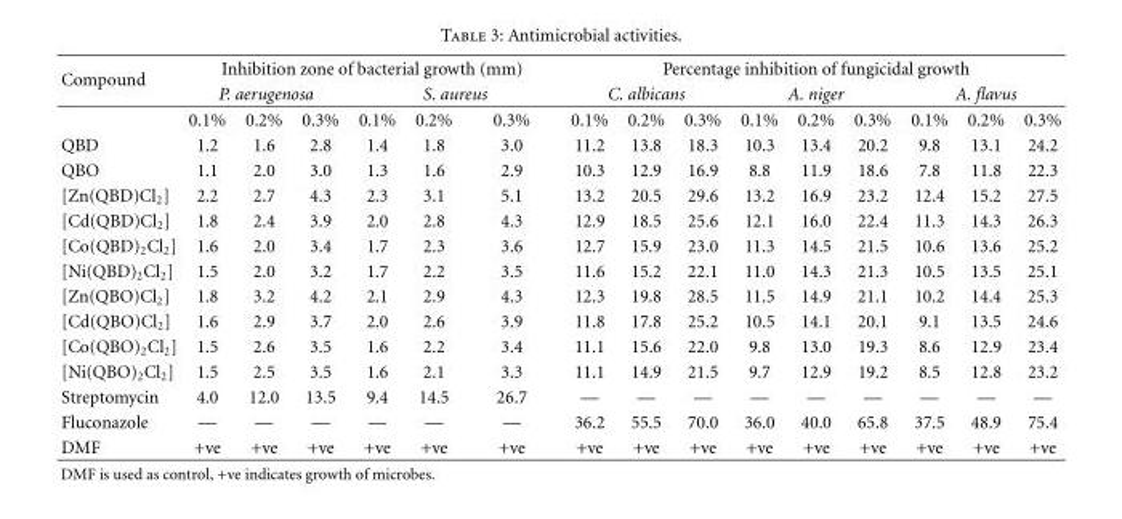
<table><thead><tr><td rowspan="3">Compound</td><td colspan="6">Inhibition zone of bacterial growth (mm)</td><td colspan="9">Percentage inhibition of fungicidal growth</td></tr><tr><td colspan="3">P. aerugenosa</td><td colspan="3">S. aureus</td><td colspan="3">C. albicans</td><td colspan="3">A. niger</td><td colspan="3">A. flavus</td></tr><tr><td>0.1%</td><td>0.2%</td><td>0.3%</td><td>0.1%</td><td>0.2%</td><td>0.3%</td><td>0.1%</td><td>0.2%</td><td>0.3%</td><td>0.1%</td><td>0.2%</td><td>0.3%</td><td>0.1%</td><td>0.2%</td><td>0.3%</td></tr></thead><tbody><tr><td>QBD</td><td>1.2</td><td>1.6</td><td>2.8</td><td>1.4</td><td>1.8</td><td>3.0</td><td>11.2</td><td>13.8</td><td>18.3</td><td>10.3</td><td>13.4</td><td>20.2</td><td>9.8</td><td>13.1</td><td>24.2</td></tr><tr><td>QBO</td><td>1.1</td><td>2.0</td><td>3.0</td><td>1.3</td><td>1.6</td><td>2.9</td><td>10.3</td><td>12.9</td><td>16.9</td><td>8.8</td><td>11.9</td><td>18.6</td><td>7.8</td><td>11.8</td><td>22.3</td></tr><tr><td>[Zn(QBD)Cl<sub>2</sub>]</td><td>2.2</td><td>2.7</td><td>4.3</td><td>2.3</td><td>3.1</td><td>5.1</td><td>13.2</td><td>20.5</td><td>29.6</td><td>13.2</td><td>16.9</td><td>23.2</td><td>12.4</td><td>15.2</td><td>27.5</td></tr><tr><td>[Cd(QBD)Cl<sub>2</sub>]</td><td>1.8</td><td>2.4</td><td>3.9</td><td>2.0</td><td>2.8</td><td>4.3</td><td>12.9</td><td>18.5</td><td>25.6</td><td>12.1</td><td>16.0</td><td>22.4</td><td>11.3</td><td>14.3</td><td>26.3</td></tr><tr><td>[Co(QBD)<sub>2</sub>Cl<sub>2</sub>]</td><td>1.6</td><td>2.0</td><td>3.4</td><td>1.7</td><td>2.3</td><td>3.6</td><td>12.7</td><td>15.9</td><td>23.0</td><td>11.3</td><td>14.5</td><td>21.5</td><td>10.6</td><td>13.6</td><td>25.2</td></tr><tr><td>[Ni(QBD)<sub>2</sub>Cl<sub>2</sub>]</td><td>1.5</td><td>2.0</td><td>3.2</td><td>1.7</td><td>2.2</td><td>3.5</td><td>11.6</td><td>15.2</td><td>22.1</td><td>11.0</td><td>14.3</td><td>21.3</td><td>10.5</td><td>13.5</td><td>25.1</td></tr><tr><td>[Zn(QBO)Cl<sub>2</sub>]</td><td>1.8</td><td>3.2</td><td>4.2</td><td>2.1</td><td>2.9</td><td>4.3</td><td>12.3</td><td>19.8</td><td>28.5</td><td>11.5</td><td>14.9</td><td>21.1</td><td>10.2</td><td>14.4</td><td>25.3</td></tr><tr><td>[Cd(QBO)Cl<sub>2</sub>]</td><td>1.6</td><td>2.9</td><td>3.7</td><td>2.0</td><td>2.6</td><td>3.9</td><td>11.8</td><td>17.8</td><td>25.2</td><td>10.5</td><td>14.1</td><td>20.1</td><td>9.1</td><td>13.5</td><td>24.6</td></tr><tr><td>[Co(QBO)<sub>2</sub>Cl<sub>2</sub>]</td><td>1.5</td><td>2.6</td><td>3.5</td><td>1.6</td><td>2.2</td><td>3.4</td><td>11.1</td><td>15.6</td><td>22.0</td><td>9.8</td><td>13.0</td><td>19.3</td><td>8.6</td><td>12.9</td><td>23.4</td></tr><tr><td>[Ni(QBO)<sub>2</sub>Cl<sub>2</sub>]</td><td>1.5</td><td>2.5</td><td>3.5</td><td>1.6</td><td>2.1</td><td>3.3</td><td>11.1</td><td>14.9</td><td>21.5</td><td>9.7</td><td>12.9</td><td>19.2</td><td>8.5</td><td>12.8</td><td>23.2</td></tr><tr><td>Streptomycin</td><td>4.0</td><td>12.0</td><td>13.5</td><td>9.4</td><td>14.5</td><td>26.7</td><td>—</td><td>—</td><td>—</td><td>—</td><td>—</td><td>—</td><td>—</td><td>—</td><td>—</td></tr><tr><td>Fluconazole</td><td>—</td><td>—</td><td>—</td><td>—</td><td>—</td><td>—</td><td>36.2</td><td>55.5</td><td>70.0</td><td>36.0</td><td>40.0</td><td>65.8</td><td>37.5</td><td>48.9</td><td>75.4</td></tr><tr><td>DMF</td><td>+ve</td><td>+ve</td><td>+ve</td><td>+ve</td><td>+ve</td><td>+ve</td><td>+ve</td><td>+ve</td><td>+ve</td><td>+ve</td><td>+ve</td><td>+ve</td><td>+ve</td><td>+ve</td><td>+ve</td></tr></tbody></table>